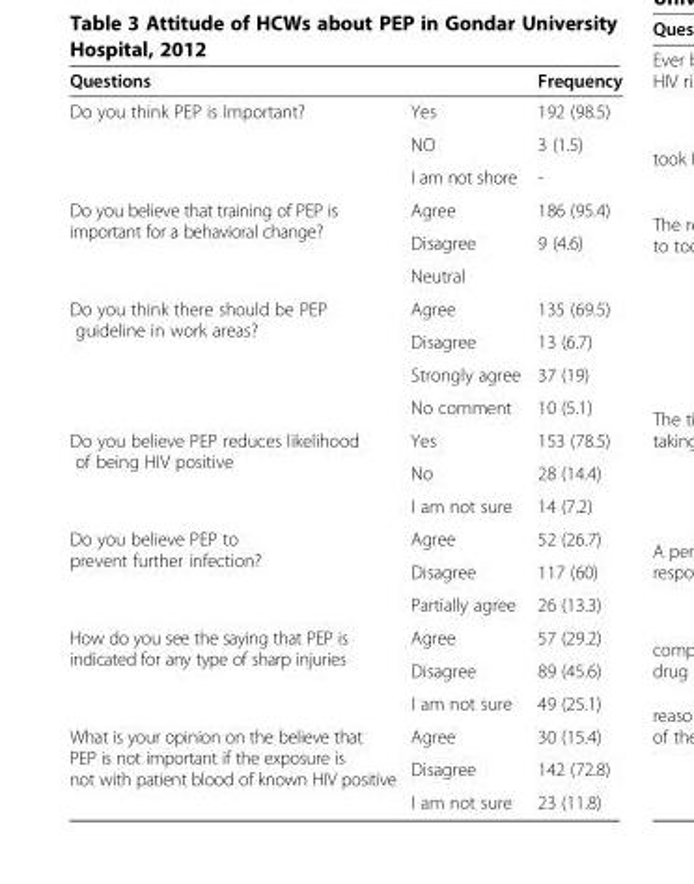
<table><thead><tr><td>Questions</td><td></td><td>Frequency</td></tr></thead><tbody><tr><td rowspan="3">Do you think PEP is Important?</td><td>Yes</td><td>192 (98.5)</td></tr><tr><td>NO</td><td>3 (1.5)</td></tr><tr><td>I am not shore</td><td>-</td></tr><tr><td rowspan="3">Do you believe that training of PEP is important for a behavioral change?</td><td>Agree</td><td>186 (95.4)</td></tr><tr><td>Disagree</td><td>9 (4.6)</td></tr><tr><td>Neutral</td><td></td></tr><tr><td rowspan="4">Do you think there should be PEP guideline in work areas?</td><td>Agree</td><td>135 (69.5)</td></tr><tr><td>Disagree</td><td>13 (6.7)</td></tr><tr><td>Strongly agree</td><td>37 (19)</td></tr><tr><td>No comment</td><td>10 (5.1)</td></tr><tr><td rowspan="3">Do you believe PEP reduces likelihood of being HIV positive</td><td>Yes</td><td>153 (78.5)</td></tr><tr><td>No</td><td>28 (14.4)</td></tr><tr><td>I am not sure</td><td>14 (7.2)</td></tr><tr><td rowspan="3">Do you believe PEP to prevent further infection?</td><td>Agree</td><td>52 (26.7)</td></tr><tr><td>Disagree</td><td>117 (60)</td></tr><tr><td>Partially agree</td><td>26 (13.3)</td></tr><tr><td rowspan="3">How do you see the saying that PEP is indicated for any type of sharp injuries</td><td>Agree</td><td>57 (29.2)</td></tr><tr><td>Disagree</td><td>89 (45.6)</td></tr><tr><td>I am not sure</td><td>49 (25.1)</td></tr><tr><td rowspan="3">What is your opinion on the believe that PEP is not important if the exposure is not with patient blood of known HIV positive</td><td>Agree</td><td>30 (15.4)</td></tr><tr><td>Disagree</td><td>142 (72.8)</td></tr><tr><td>I am not sure</td><td>23 (11.8)</td></tr></tbody></table>